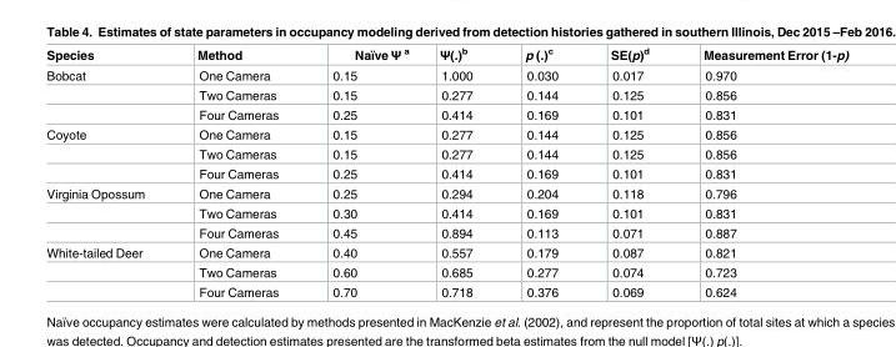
<table><thead><tr><td>Species</td><td>Method</td><td>Naïve Ψ <sup>a</sup></td><td>Ψ(.)<sup>b</sup></td><td>p (.)<sup>c</sup></td><td>SE(p)<sup>d</sup></td><td>Measurement Error (1-p)</td></tr></thead><tbody><tr><td rowspan="3">Bobcat</td><td>One Camera</td><td>0.15</td><td>1.000</td><td>0.030</td><td>0.017</td><td>0.970</td></tr><tr><td>Two Cameras</td><td>0.15</td><td>0.277</td><td>0.144</td><td>0.125</td><td>0.856</td></tr><tr><td>Four Cameras</td><td>0.25</td><td>0.414</td><td>0.169</td><td>0.101</td><td>0.831</td></tr><tr><td rowspan="3">Coyote</td><td>One Camera</td><td>0.15</td><td>0.277</td><td>0.144</td><td>0.125</td><td>0.856</td></tr><tr><td>Two Cameras</td><td>0.15</td><td>0.277</td><td>0.144</td><td>0.125</td><td>0.856</td></tr><tr><td>Four Cameras</td><td>0.25</td><td>0.414</td><td>0.169</td><td>0.101</td><td>0.831</td></tr><tr><td rowspan="3">Virginia Opossum</td><td>One Camera</td><td>0.25</td><td>0.294</td><td>0.204</td><td>0.118</td><td>0.796</td></tr><tr><td>Two Cameras</td><td>0.30</td><td>0.414</td><td>0.169</td><td>0.101</td><td>0.831</td></tr><tr><td>Four Cameras</td><td>0.45</td><td>0.894</td><td>0.113</td><td>0.071</td><td>0.887</td></tr><tr><td rowspan="3">White-tailed Deer</td><td>One Camera</td><td>0.40</td><td>0.557</td><td>0.179</td><td>0.087</td><td>0.821</td></tr><tr><td>Two Cameras</td><td>0.60</td><td>0.685</td><td>0.277</td><td>0.074</td><td>0.723</td></tr><tr><td>Four Cameras</td><td>0.70</td><td>0.718</td><td>0.376</td><td>0.069</td><td>0.624</td></tr></tbody></table>